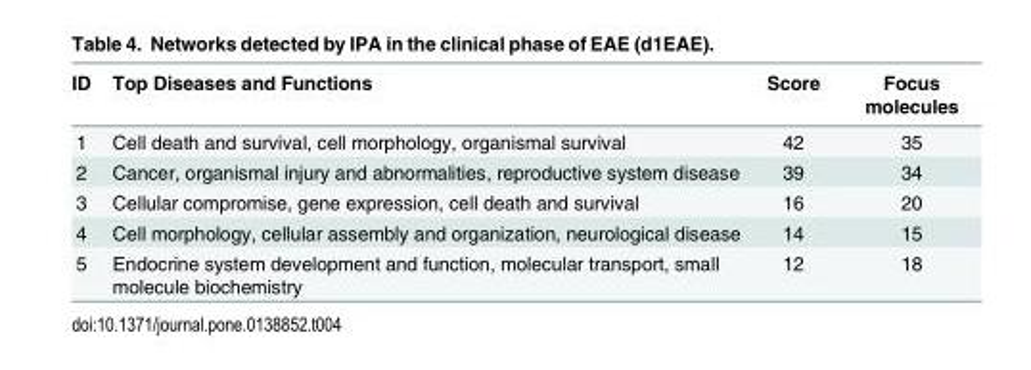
<table><thead><tr><td>ID</td><td>Top Diseases and Functions</td><td>Score</td><td>Focus molecules</td></tr></thead><tbody><tr><td>1</td><td>Cell death and survival, cell morphology, organismal survival</td><td>42</td><td>35</td></tr><tr><td>2</td><td>Cancer, organismal injury and abnormalities, reproductive system disease</td><td>39</td><td>34</td></tr><tr><td>3</td><td>Cellular compromise, gene expression, cell death and survival</td><td>16</td><td>20</td></tr><tr><td>4</td><td>Cell morphology, cellular assembly and organization, neurological disease</td><td>14</td><td>15</td></tr><tr><td>5</td><td>Endocrine system development and function, molecular transport, small molecule biochemistry</td><td>12</td><td>18</td></tr></tbody></table>